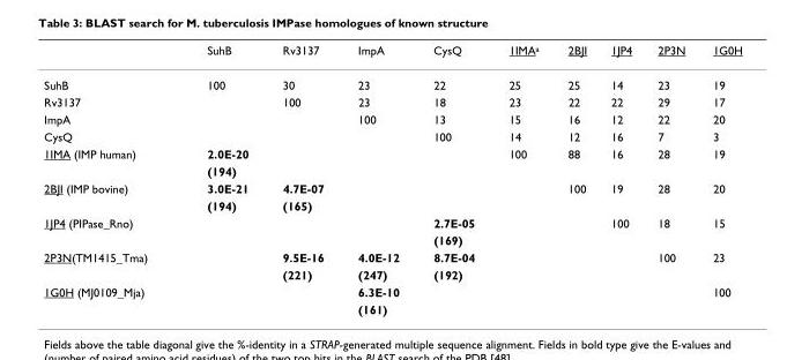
<table><thead><tr><td></td><td>SuhB</td><td>Rv3137</td><td>ImpA</td><td>CysQ</td><td>1IMA<sup>a</sup></td><td>2BJI</td><td>1JP4</td><td>2P3N</td><td>1G0H</td></tr></thead><tbody><tr><td>SuhB</td><td>100</td><td>30</td><td>23</td><td>22</td><td>25</td><td>25</td><td>14</td><td>23</td><td>19</td></tr><tr><td>Rv3137</td><td></td><td>100</td><td>23</td><td>18</td><td>23</td><td>22</td><td>22</td><td>29</td><td>17</td></tr><tr><td>ImpA</td><td></td><td></td><td>100</td><td>13</td><td>15</td><td>16</td><td>12</td><td>22</td><td>20</td></tr><tr><td>CysQ</td><td></td><td></td><td></td><td>100</td><td>14</td><td>12</td><td>16</td><td>7</td><td>3</td></tr><tr><td rowspan="2">1IMA (IMP human)</td><td>2.0E-20</td><td></td><td></td><td></td><td>100</td><td>88</td><td>16</td><td>28</td><td>19</td></tr><tr><td>(194)</td><td></td><td></td><td></td><td></td><td></td><td></td><td></td><td></td></tr><tr><td rowspan="2">2BJI (IMP bovine)</td><td>3.0E-21</td><td>4.7E-07</td><td></td><td></td><td></td><td>100</td><td>19</td><td>28</td><td>20</td></tr><tr><td>(194)</td><td>(165)</td><td></td><td></td><td></td><td></td><td></td><td></td><td></td></tr><tr><td rowspan="2">1JP4 (PIPase_Rno)</td><td></td><td></td><td></td><td>2.7E-05</td><td></td><td></td><td>100</td><td>18</td><td>15</td></tr><tr><td></td><td></td><td></td><td>(169)</td><td></td><td></td><td></td><td></td><td></td></tr><tr><td rowspan="2">2P3N(TM1415_Tma)</td><td></td><td>9.5E-16</td><td>4.0E-12</td><td>8.7E-04</td><td></td><td></td><td></td><td>100</td><td>23</td></tr><tr><td></td><td>(221)</td><td>(247)</td><td>(192)</td><td></td><td></td><td></td><td></td><td></td></tr><tr><td rowspan="2">1G0H (MJ0109_Mja)</td><td></td><td></td><td>6.3E-10</td><td></td><td></td><td></td><td></td><td></td><td>100</td></tr><tr><td></td><td></td><td>(161)</td><td></td><td></td><td></td><td></td><td></td><td></td></tr></tbody></table>